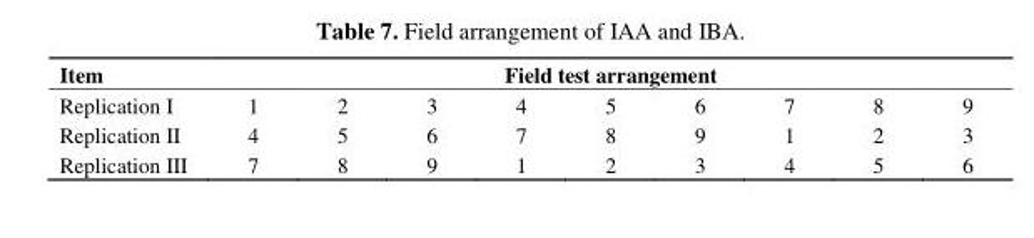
<table><thead><tr><td rowspan="2">Item Replication I</td><td colspan="9">Field test arrangement</td></tr><tr><td>1</td><td>2</td><td>3</td><td>4</td><td>5</td><td>6</td><td>7</td><td>8</td><td>9</td></tr></thead><tbody><tr><td>Replication II</td><td>4</td><td>5</td><td>6</td><td>7</td><td>8</td><td>9</td><td>1</td><td>2</td><td>3</td></tr><tr><td>Replication III</td><td>7</td><td>8</td><td>9</td><td>1</td><td>2</td><td>3</td><td>4</td><td>5</td><td>6</td></tr></tbody></table>